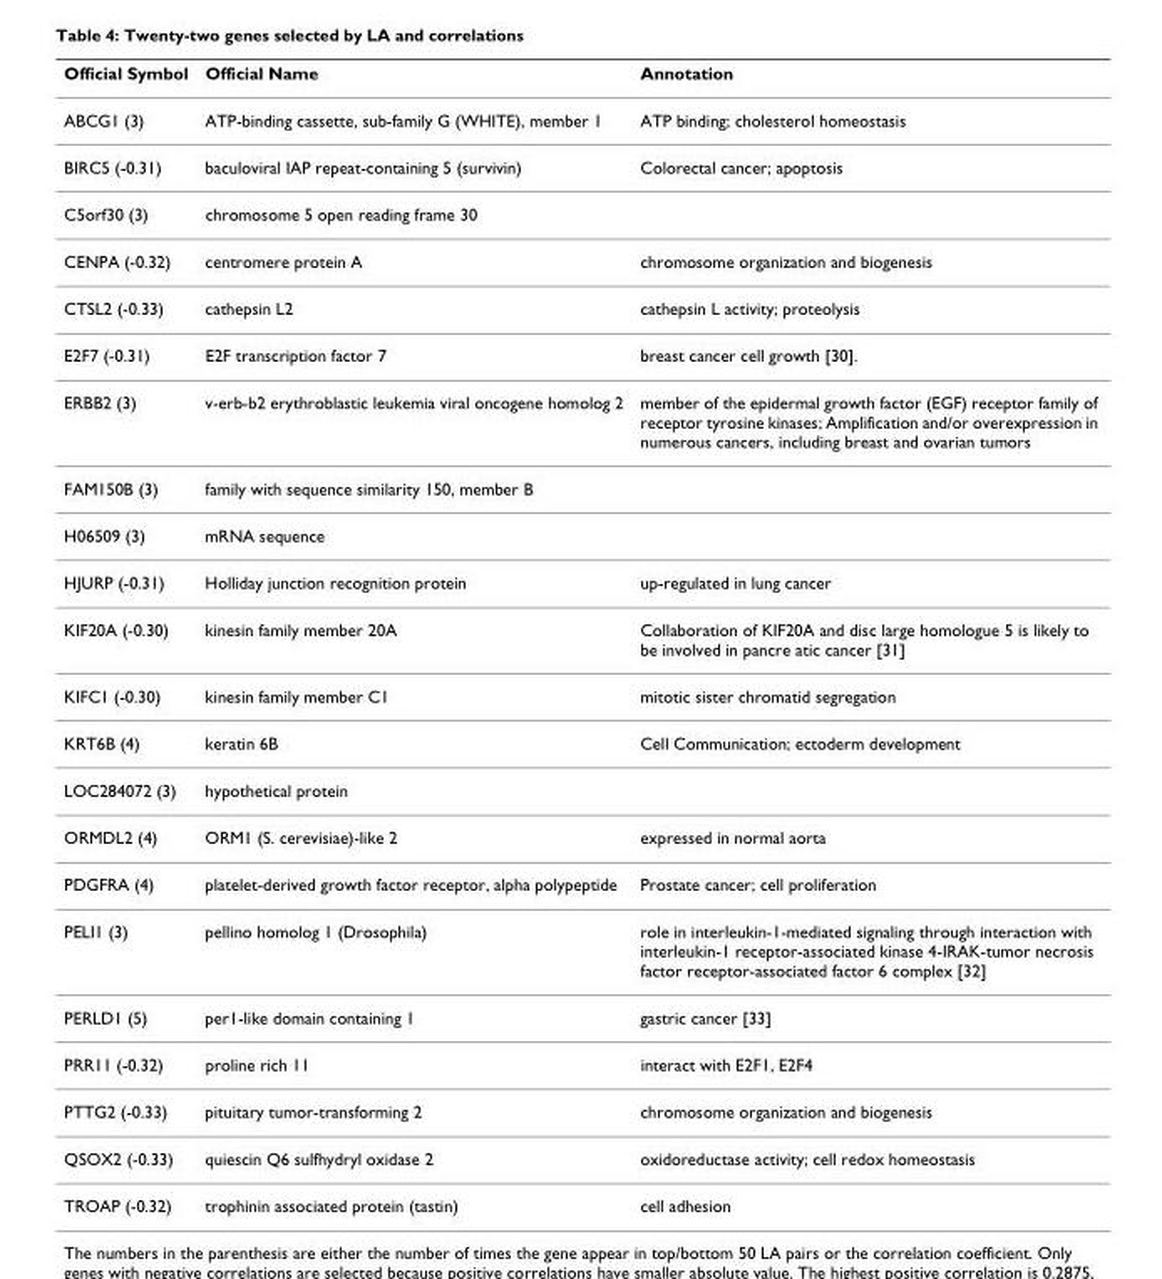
<table><thead><tr><td>Official Symbol</td><td>Official Name</td><td>Annotation</td></tr></thead><tbody><tr><td>ABCG1 (3)</td><td>ATP-binding cassette, sub-family G (WHITE), member 1</td><td>ATP binding; cholesterol homeostasis</td></tr><tr><td>BIRC5 (-0.31)</td><td>baculoviral IAP repeat-containing 5 (survivin)</td><td>Colorectal cancer; apoptosis</td></tr><tr><td>C5orf30 (3)</td><td>chromosome 5 open reading frame 30</td><td></td></tr><tr><td>CENPA (-0.32)</td><td>centromere protein A</td><td>chromosome organization and biogenesis</td></tr><tr><td>CTSL2 (-0.33)</td><td>cathepsin L2</td><td>cathepsin L activity; proteolysis</td></tr><tr><td>E2F7 (-0.31)</td><td>E2F transcription factor 7</td><td>breast cancer cell growth [30].</td></tr><tr><td>ERBB2 (3)</td><td>v-erb-b2 erythroblastic leukemia viral oncogene homolog 2</td><td>member of the epidermal growth factor (EGF) receptor family of receptor tyrosine kinases; Amplification and/or overexpression in numerous cancers, including breast and ovarian tumors</td></tr><tr><td>FAM150B (3)</td><td>family with sequence similarity 150, member B</td><td></td></tr><tr><td>H06509 (3)</td><td>mRNA sequence</td><td></td></tr><tr><td>HJURP (-0.31)</td><td>Holliday junction recognition protein</td><td>up-regulated in lung cancer</td></tr><tr><td>KIF20A (-0.30)</td><td>kinesin family member 20A</td><td>Collaboration of KIF20A and disc large homologue 5 is likely to be involved in pancre atic cancer [31]</td></tr><tr><td>KIFC1 (-0.30)</td><td>kinesin family member C1</td><td>mitotic sister chromatid segregation</td></tr><tr><td>KRT6B (4)</td><td>keratin 6B</td><td>Cell Communication; ectoderm development</td></tr><tr><td>LOC284072 (3)</td><td>hypothetical protein</td><td></td></tr><tr><td>ORMDL2 (4)</td><td>ORM1 (S. cerevisiae)-like 2</td><td>expressed in normal aorta</td></tr><tr><td>PDGFRA (4)</td><td>platelet-derived growth factor receptor, alpha polypeptide</td><td>Prostate cancer; cell proliferation</td></tr><tr><td>PELI1 (3)</td><td>pellino homolog 1 (Drosophila)</td><td>role in interleukin-1-mediated signaling through interaction with interleukin-1 receptor-associated kinase 4-IRAK-tumor necrosis factor receptor-associated factor 6 complex [32]</td></tr><tr><td>PERLD1 (5)</td><td>per1-like domain containing 1</td><td>gastric cancer [33]</td></tr><tr><td>PRR11 (-0.32)</td><td>proline rich 11</td><td>interact with E2F1, E2F4</td></tr><tr><td>PTTG2 (-0.33)</td><td>pituitary tumor-transforming 2</td><td>chromosome organization and biogenesis</td></tr><tr><td>QSOX2 (-0.33)</td><td>quiescin Q6 sulfhydryl oxidase 2</td><td>oxidoreductase activity; cell redox homeostasis</td></tr><tr><td>TROAP (-0.32)</td><td>trophinin associated protein (tastin)</td><td>cell adhesion</td></tr></tbody></table>